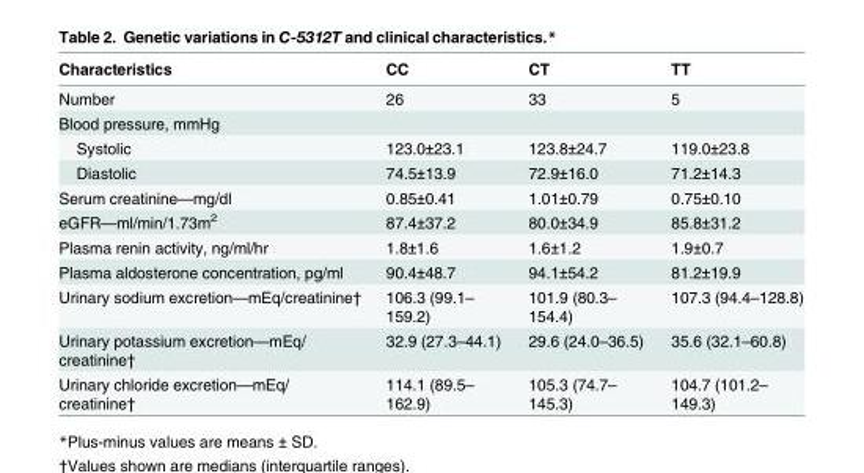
<table><thead><tr><td>Characteristics</td><td>CC</td><td>CT</td><td>TT</td></tr></thead><tbody><tr><td>Number</td><td>26</td><td>33</td><td>5</td></tr><tr><td colspan="4">Blood pressure, mmHg</td></tr><tr><td>Systolic</td><td>123.0±23.1</td><td>123.8±24.7</td><td>119.0±23.8</td></tr><tr><td>Diastolic</td><td>74.5±13.9</td><td>72.9±16.0</td><td>71.2±14.3</td></tr><tr><td>Serum creatinine—mg/dl</td><td>0.85±0.41</td><td>1.01±0.79</td><td>0.75±0.10</td></tr><tr><td>eGFR—ml/min/1.73m<sup>2</sup></td><td>87.4±37.2</td><td>80.0±34.9</td><td>85.8±31.2</td></tr><tr><td>Plasma renin activity, ng/ml/hr</td><td>1.8±1.6</td><td>1.6±1.2</td><td>1.9±0.7</td></tr><tr><td>Plasma aldosterone concentration, pg/ml</td><td>90.4±48.7</td><td>94.1±54.2</td><td>81.2±19.9</td></tr><tr><td>Urinary sodium excretion—mEq/creatinine†</td><td>106.3 (99.1– 159.2)</td><td>101.9 (80.3– 154.4)</td><td>107.3 (94.4–128.8)</td></tr><tr><td>Urinary potassium excretion—mEq/ creatinine†</td><td>32.9 (27.3–44.1)</td><td>29.6 (24.0–36.5)</td><td>35.6 (32.1–60.8)</td></tr><tr><td>Urinary chloride excretion—mEq/ creatinine†</td><td>114.1 (89.5– 162.9)</td><td>105.3 (74.7– 145.3)</td><td>104.7 (101.2– 149.3)</td></tr></tbody></table>